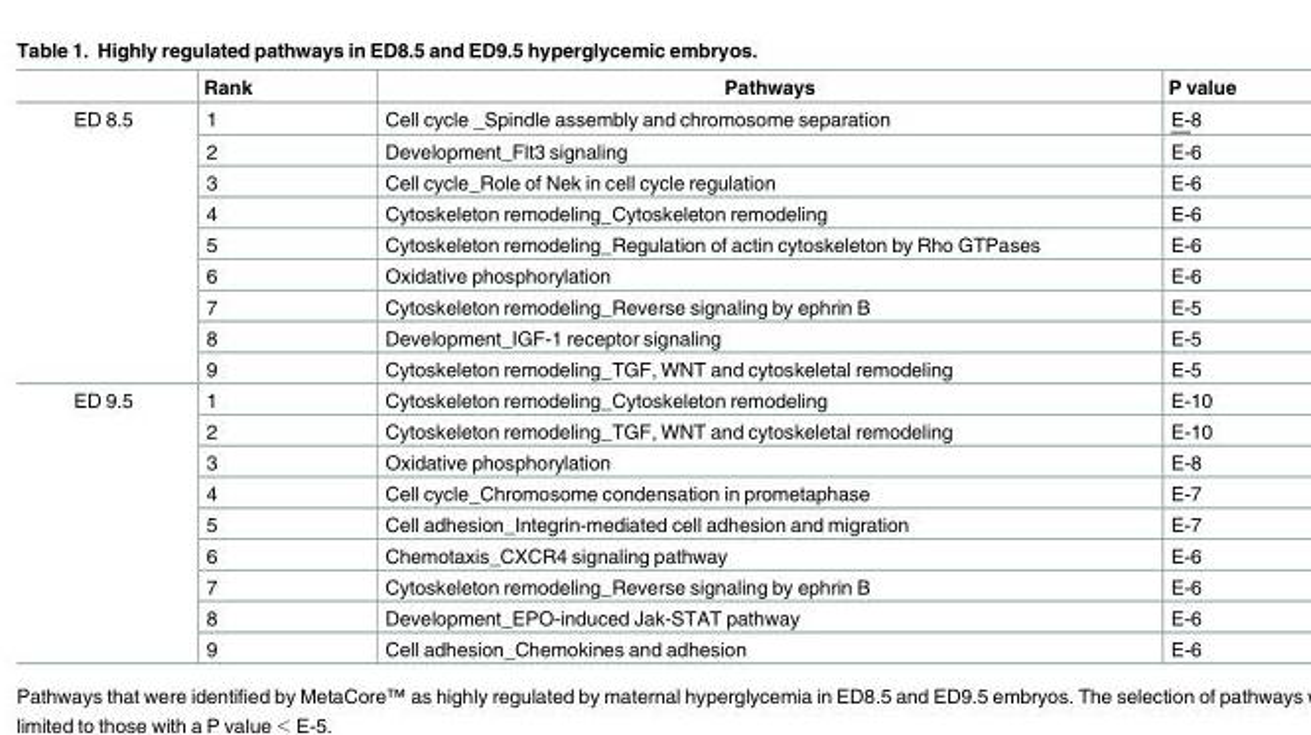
<table><thead><tr><td></td><td>Rank</td><td>Pathways</td><td>P value</td></tr></thead><tbody><tr><td rowspan="9">ED 8.5</td><td>1</td><td>Cell cycle _Spindle assembly and chromosome separation</td><td>E-8</td></tr><tr><td>2</td><td>Development_Flt3 signaling</td><td>E-6</td></tr><tr><td>3</td><td>Cell cycle_Role of Nek in cell cycle regulation</td><td>E-6</td></tr><tr><td>4</td><td>Cytoskeleton remodeling_Cytoskeleton remodeling</td><td>E-6</td></tr><tr><td>5</td><td>Cytoskeleton remodeling_Regulation of actin cytoskeleton by Rho GTPases</td><td>E-6</td></tr><tr><td>6</td><td>Oxidative phosphorylation</td><td>E-6</td></tr><tr><td>7</td><td>Cytoskeleton remodeling_Reverse signaling by ephrin B</td><td>E-5</td></tr><tr><td>8</td><td>Development_IGF-1 receptor signaling</td><td>E-5</td></tr><tr><td>9</td><td>Cytoskeleton remodeling_TGF, WNT and cytoskeletal remodeling</td><td>E-5</td></tr><tr><td rowspan="9">ED 9.5</td><td>1</td><td>Cytoskeleton remodeling_Cytoskeleton remodeling</td><td>E-10</td></tr><tr><td>2</td><td>Cytoskeleton remodeling_TGF, WNT and cytoskeletal remodeling</td><td>E-10</td></tr><tr><td>3</td><td>Oxidative phosphorylation</td><td>E-8</td></tr><tr><td>4</td><td>Cell cycle_Chromosome condensation in prometaphase</td><td>E-7</td></tr><tr><td>5</td><td>Cell adhesion_Integrin-mediated cell adhesion and migration</td><td>E-7</td></tr><tr><td>6</td><td>Chemotaxis_CXCR4 signaling pathway</td><td>E-6</td></tr><tr><td>7</td><td>Cytoskeleton remodeling_Reverse signaling by ephrin B</td><td>E-6</td></tr><tr><td>8</td><td>Development_EPO-induced Jak-STAT pathway</td><td>E-6</td></tr><tr><td>9</td><td>Cell adhesion_Chemokines and adhesion</td><td>E-6</td></tr></tbody></table>